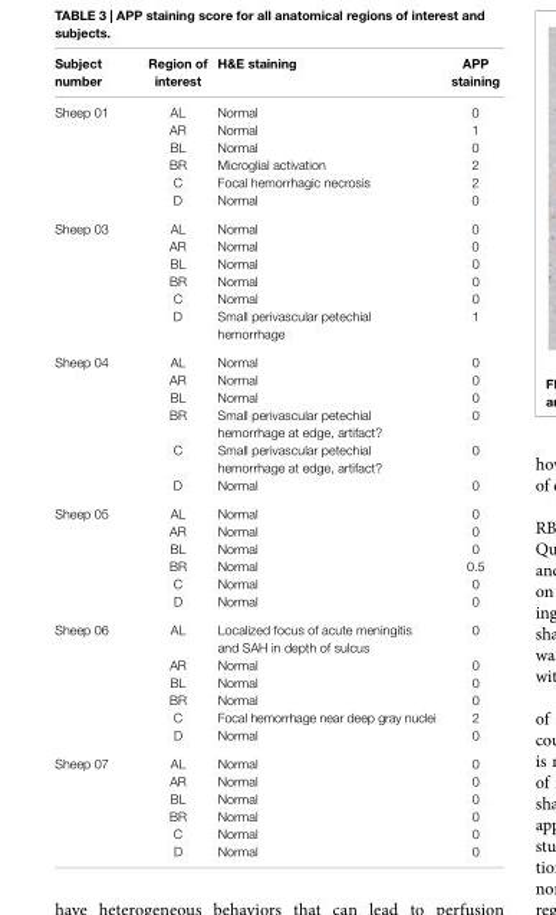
<table><thead><tr><td>subject number</td><td>region of interest</td><td>h&amp;e staining</td><td>aPP staining</td></tr></thead><tbody><tr><td rowspan="6">Sheep 01</td><td>AL</td><td>Normal</td><td>0</td></tr><tr><td>AR</td><td>Normal</td><td>1</td></tr><tr><td>BL</td><td>Normal</td><td>0</td></tr><tr><td>BR</td><td>Microglial activation</td><td>2</td></tr><tr><td>C</td><td>Focal hemorrhagic necrosis</td><td>2</td></tr><tr><td>D</td><td>Normal</td><td>0</td></tr><tr><td rowspan="6">Sheep 03</td><td>AL</td><td>Normal</td><td>0</td></tr><tr><td>AR</td><td>Normal</td><td>0</td></tr><tr><td>BL</td><td>Normal</td><td>0</td></tr><tr><td>BR</td><td>Normal</td><td>0</td></tr><tr><td>C</td><td>Normal</td><td>0</td></tr><tr><td>D</td><td>Small perivascular petechial hemorrhage</td><td>1</td></tr><tr><td rowspan="6">Sheep 04</td><td>AL</td><td>Normal</td><td>0</td></tr><tr><td>AR</td><td>Normal</td><td>0</td></tr><tr><td>BL</td><td>Normal</td><td>0</td></tr><tr><td>BR</td><td>Small perivascular petechial hemorrhage at edge, artifact?</td><td>0</td></tr><tr><td>C</td><td>Small perivascular petechial hemorrhage at edge, artifact?</td><td>0</td></tr><tr><td>D</td><td>Normal</td><td>0</td></tr><tr><td rowspan="6">Sheep 05</td><td>AL</td><td>Normal</td><td>0</td></tr><tr><td>AR</td><td>Normal</td><td>0</td></tr><tr><td>BL</td><td>Normal</td><td>0</td></tr><tr><td>BR</td><td>Normal</td><td>0.5</td></tr><tr><td>C</td><td>Normal</td><td>0</td></tr><tr><td>D</td><td>Normal</td><td>0</td></tr><tr><td rowspan="6">Sheep 06</td><td>AL</td><td>Localized focus of acute meningitis and SAH in depth of sulcus</td><td>0</td></tr><tr><td>AR</td><td>Normal</td><td>0</td></tr><tr><td>BL</td><td>Normal</td><td>0</td></tr><tr><td>BR</td><td>Normal</td><td>0</td></tr><tr><td>C</td><td>Focal hemorrhage near deep gray nuclei</td><td>2</td></tr><tr><td>D</td><td>Normal</td><td>0</td></tr><tr><td rowspan="6">Sheep 07</td><td>AL</td><td>Normal</td><td>0</td></tr><tr><td>AR</td><td>Normal</td><td>0</td></tr><tr><td>BL</td><td>Normal</td><td>0</td></tr><tr><td>BR</td><td>Normal</td><td>0</td></tr><tr><td>C</td><td>Normal</td><td>0</td></tr><tr><td>D</td><td>Normal</td><td>0</td></tr></tbody></table>